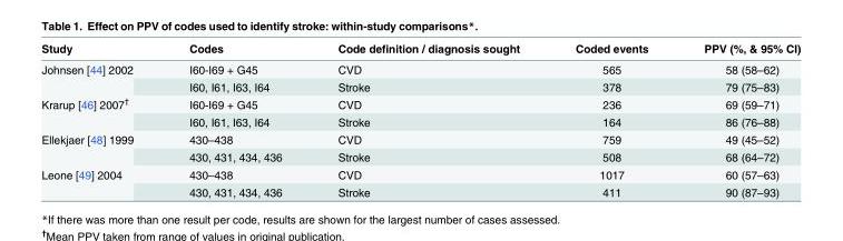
<table><thead><tr><td>Study</td><td>Codes</td><td>Code definition / diagnosis sought</td><td>Coded events</td><td>PPV (%, &amp; 95% CI)</td></tr></thead><tbody><tr><td rowspan="2">Johnsen [44] 2002</td><td>I60-I69 + G45</td><td>CVD</td><td>565</td><td>58 (58–62)</td></tr><tr><td>I60, I61, I63, I64</td><td>Stroke</td><td>378</td><td>79 (75–83)</td></tr><tr><td rowspan="2">Krarup [46] 2007<sup>†</sup></td><td>I60-I69 + G45</td><td>CVD</td><td>236</td><td>69 (59–71)</td></tr><tr><td>I60, I61, I63, I64</td><td>Stroke</td><td>164</td><td>86 (76–88)</td></tr><tr><td rowspan="2">Ellekjaer [48] 1999</td><td>430–438</td><td>CVD</td><td>759</td><td>49 (45–52)</td></tr><tr><td>430, 431, 434, 436</td><td>Stroke</td><td>508</td><td>68 (64–72)</td></tr><tr><td rowspan="2">Leone [49] 2004</td><td>430–438</td><td>CVD</td><td>1017</td><td>60 (57–63)</td></tr><tr><td>430, 431, 434, 436</td><td>Stroke</td><td>411</td><td>90 (87–93)</td></tr></tbody></table>